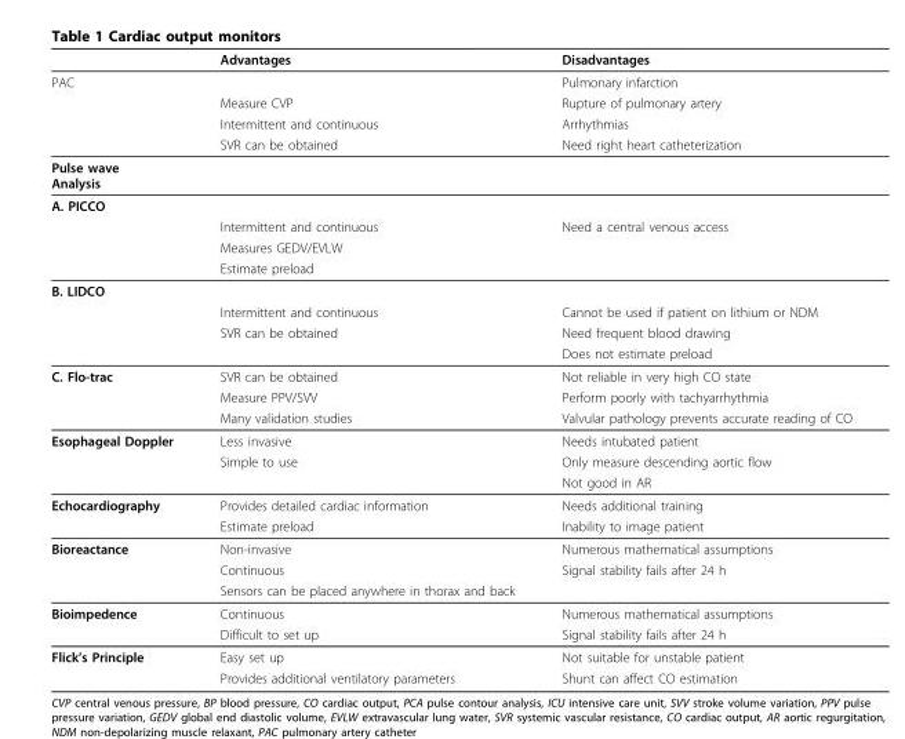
<table><thead><tr><td></td><td>Advantages</td><td>Disadvantages</td></tr></thead><tbody><tr><td rowspan="4">PAC</td><td></td><td>Pulmonary infarction</td></tr><tr><td>Measure CVP</td><td>Rupture of pulmonary artery</td></tr><tr><td>Intermittent and continuous</td><td>Arrhythmias</td></tr><tr><td>SVR can be obtained</td><td>Need right heart catheterization</td></tr><tr><td colspan="3">Pulse wave Analysis</td></tr><tr><td colspan="3">A. PICCO</td></tr><tr><td></td><td>Intermittent and continuous</td><td>Need a central venous access</td></tr><tr><td></td><td>Measures GEDV/EVLW</td><td></td></tr><tr><td></td><td>Estimate preload</td><td></td></tr><tr><td colspan="3">B. LIDCO</td></tr><tr><td></td><td>Intermittent and continuous</td><td>Cannot be used if patient on lithium or NDM</td></tr><tr><td></td><td>SVR can be obtained</td><td>Need frequent blood drawing</td></tr><tr><td></td><td></td><td>Does not estimate preload</td></tr><tr><td rowspan="3">C. Flo-trac</td><td>SVR can be obtained</td><td>Not reliable in very high CO state</td></tr><tr><td>Measure PPV/SVV</td><td>Perform poorly with tachyarrhythmia</td></tr><tr><td>Many validation studies</td><td>Valvular pathology prevents accurate reading of CO</td></tr><tr><td rowspan="3">Esophageal Doppler</td><td>Less invasive</td><td>Needs intubated patient</td></tr><tr><td>Simple to use</td><td>Only measure descending aortic flow</td></tr><tr><td></td><td>Not good in AR</td></tr><tr><td rowspan="2">Echocardiography</td><td>Provides detailed cardiac information</td><td>Needs additional training</td></tr><tr><td>Estimate preload</td><td>Inability to image patient</td></tr><tr><td rowspan="3">Bioreactance</td><td>Non-invasive</td><td>Numerous mathematical assumptions</td></tr><tr><td>Continuous</td><td>Signal stability fails after 24 h</td></tr><tr><td>Sensors can be placed anywhere in thorax and back</td><td></td></tr><tr><td rowspan="2">Bioimpedence</td><td>Continuous</td><td>Numerous mathematical assumptions</td></tr><tr><td>Difficult to set up</td><td>Signal stability fails after 24 h</td></tr><tr><td rowspan="2">Flick’s Principle</td><td>Easy set up</td><td>Not suitable for unstable patient</td></tr><tr><td>Provides additional ventilatory parameters</td><td>Shunt can affect CO estimation</td></tr></tbody></table>